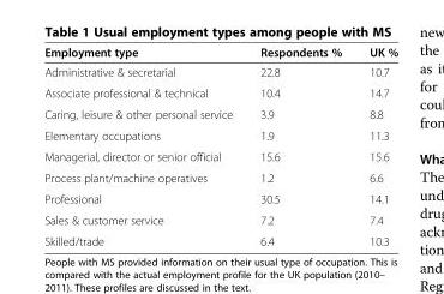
<table><thead><tr><td>Employment type</td><td>Respondents %</td><td>UK %</td></tr></thead><tbody><tr><td>Administrative &amp; secretarial</td><td>22.8</td><td>10.7</td></tr><tr><td>Associate professional &amp; technical</td><td>10.4</td><td>14.7</td></tr><tr><td>Caring, leisure &amp; other personal service</td><td>3.9</td><td>8.8</td></tr><tr><td>Elementary occupations</td><td>1.9</td><td>11.3</td></tr><tr><td>Managerial, director or senior official</td><td>15.6</td><td>15.6</td></tr><tr><td>Process plant/machine operatives</td><td>1.2</td><td>6.6</td></tr><tr><td>Professional</td><td>30.5</td><td>14.1</td></tr><tr><td>Sales &amp; customer service</td><td>7.2</td><td>7.4</td></tr><tr><td>Skilled/trade</td><td>6.4</td><td>10.3</td></tr></tbody></table>